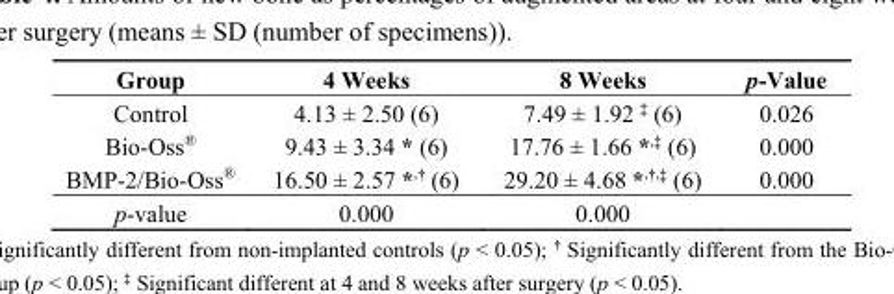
<table><thead><tr><td>Group</td><td>4 Weeks</td><td>8 Weeks</td><td>p-Value</td></tr></thead><tbody><tr><td>Control</td><td>4.13 ± 2.50 (6)</td><td>7.49 ± 1.92 <sup>‡</sup> (6)</td><td>0.026</td></tr><tr><td>Bio-Oss<sup>®</sup></td><td>9.43 ± 3.34 * (6)</td><td>17.76 ± 1.66 *<sup>,‡</sup> (6)</td><td>0.000</td></tr><tr><td>BMP-2/Bio-Oss<sup>®</sup></td><td>16.50 ± 2.57 *<sup>,†</sup> (6)</td><td>29.20 ± 4.68 *<sup>,†,‡</sup> (6)</td><td>0.000</td></tr><tr><td>p-value</td><td>0.000</td><td>0.000</td><td></td></tr></tbody></table>